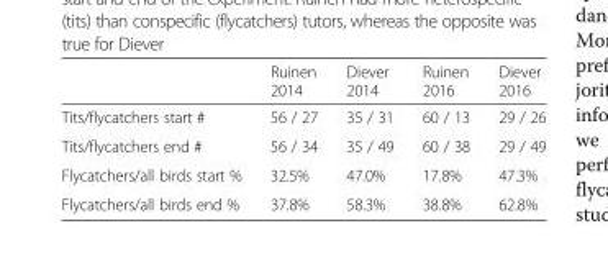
<table><thead><tr><td></td><td>Ruinen 2014</td><td>Diever 2014</td><td>Ruinen 2016</td><td>Diever 2016</td></tr></thead><tbody><tr><td>Tits/flycatchers start #</td><td>56 / 27</td><td>35 / 31</td><td>60 / 13</td><td>29 / 26</td></tr><tr><td>Tits/flycatchers end #</td><td>56 / 34</td><td>35 / 49</td><td>60 / 38</td><td>29 / 49</td></tr><tr><td>Flycatchers/all birds start %</td><td>32.5%</td><td>47.0%</td><td>17.8%</td><td>47.3%</td></tr><tr><td>Flycatchers/all birds end %</td><td>37.8%</td><td>58.3%</td><td>38.8%</td><td>62.8%</td></tr></tbody></table>